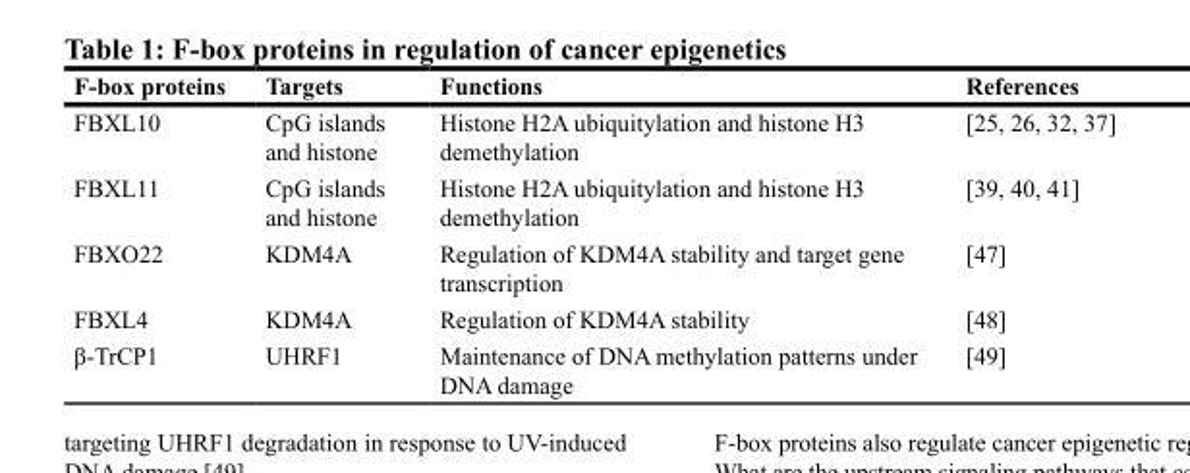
<table><thead><tr><td>F-box proteins</td><td>Targets</td><td>Functions</td><td>References</td></tr></thead><tbody><tr><td>FBXL10</td><td>CpG islands and histone</td><td>Histone H2A ubiquitylation and histone H3 demethylation</td><td>[25, 26, 32, 37]</td></tr><tr><td>FBXL11</td><td>CpG islands and histone</td><td>Histone H2A ubiquitylation and histone H3 demethylation</td><td>[39, 40, 41]</td></tr><tr><td>FBXO22</td><td>KDM4A</td><td>Regulation of KDM4A stability and target gene transcription</td><td>[47]</td></tr><tr><td>FBXL4</td><td>KDM4A</td><td>Regulation of KDM4A stability</td><td>[48]</td></tr><tr><td>β-TrCP1</td><td>UHRF1</td><td>Maintenance of DNA methylation patterns under DNA damage</td><td>[49]</td></tr></tbody></table>